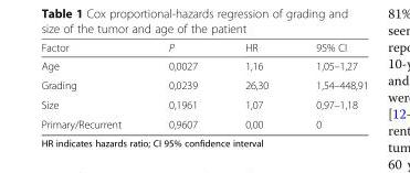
<table><thead><tr><td>Factor</td><td>P</td><td>HR</td><td>95% CI</td></tr></thead><tbody><tr><td>Age</td><td>0,0027</td><td>1,16</td><td>1,05–1,27</td></tr><tr><td>Grading</td><td>0,0239</td><td>26,30</td><td>1,54–448,91</td></tr><tr><td>Size</td><td>0,1961</td><td>1,07</td><td>0,97–1,18</td></tr><tr><td>Primary/Recurrent</td><td>0,9607</td><td>0,00</td><td>0</td></tr></tbody></table>